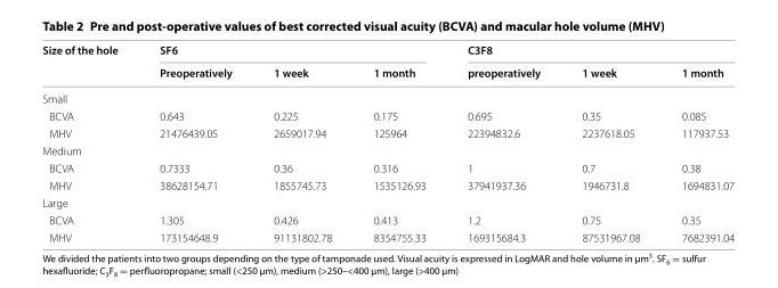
<table><thead><tr><td rowspan="2">Size of the hole</td><td colspan="3">SF6</td><td colspan="3">C3F8</td></tr><tr><td>Preoperatively</td><td>1 week</td><td>1 month</td><td>preoperatively</td><td>1 week</td><td>1 month</td></tr></thead><tbody><tr><td colspan="7">Small</td></tr><tr><td>BCVA</td><td>0.643</td><td>0.225</td><td>0.175</td><td>0.695</td><td>0.35</td><td>0.085</td></tr><tr><td>MHV</td><td>21476439.05</td><td>2659017.94</td><td>125964</td><td>22394832.6</td><td>2237618.05</td><td>117937.53</td></tr><tr><td colspan="7">Medium</td></tr><tr><td>BCVA</td><td>0.7333</td><td>0.36</td><td>0.316</td><td>1</td><td>0.7</td><td>0.38</td></tr><tr><td>MHV</td><td>38628154.71</td><td>1855745.73</td><td>1535126.93</td><td>37941937.36</td><td>1946731.8</td><td>1694831.07</td></tr><tr><td colspan="7">Large</td></tr><tr><td>BCVA</td><td>1.305</td><td>0.426</td><td>0.413</td><td>1.2</td><td>0.75</td><td>0.35</td></tr><tr><td>MHV</td><td>173154648.9</td><td>91131802.78</td><td>8354755.33</td><td>169315684.3</td><td>87531967.08</td><td>7682391.04</td></tr></tbody></table>